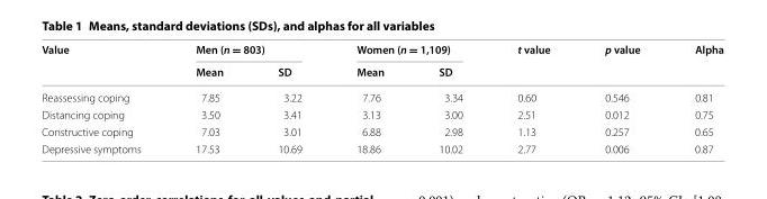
<table><thead><tr><td rowspan="2">Value</td><td colspan="2">Men (n = 803)</td><td colspan="2">Women (n = 1,109)</td><td rowspan="2">t value</td><td rowspan="2">p value</td><td rowspan="2">Alpha</td></tr><tr><td>Mean</td><td>SD</td><td>Mean</td><td>SD</td></tr></thead><tbody><tr><td>Reassessing coping</td><td>7.85</td><td>3.22</td><td>7.76</td><td>3.34</td><td>0.60</td><td>0.546</td><td>0.81</td></tr><tr><td>Distancing coping</td><td>3.50</td><td>3.41</td><td>3.13</td><td>3.00</td><td>2.51</td><td>0.012</td><td>0.75</td></tr><tr><td>Constructive coping</td><td>7.03</td><td>3.01</td><td>6.88</td><td>2.98</td><td>1.13</td><td>0.257</td><td>0.65</td></tr><tr><td>Depressive symptoms</td><td>17.53</td><td>10.69</td><td>18.86</td><td>10.02</td><td>2.77</td><td>0.006</td><td>0.87</td></tr></tbody></table>